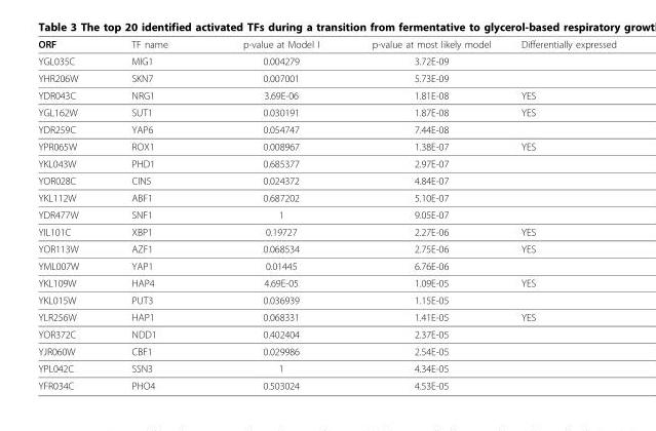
<table><thead><tr><td>ORF</td><td>TF name</td><td>p-value at Model I</td><td>p-value at most likely model</td><td>Differentially expressed</td></tr></thead><tbody><tr><td>YGL035C</td><td>MIG1</td><td>0.004279</td><td>3.72E-09</td><td></td></tr><tr><td>YHR206W</td><td>SKN7</td><td>0.007001</td><td>5.73E-09</td><td></td></tr><tr><td>YDR043C</td><td>NRG1</td><td>3.69E-06</td><td>1.81E-08</td><td>YES</td></tr><tr><td>YGL162W</td><td>SUT1</td><td>0.030191</td><td>1.87E-08</td><td>YES</td></tr><tr><td>YDR259C</td><td>YAP6</td><td>0.054747</td><td>7.44E-08</td><td></td></tr><tr><td>YPR065W</td><td>ROX1</td><td>0.008967</td><td>1.38E-07</td><td>YES</td></tr><tr><td>YKL043W</td><td>PHD1</td><td>0.685377</td><td>2.97E-07</td><td></td></tr><tr><td>YOR028C</td><td>CIN5</td><td>0.024372</td><td>4.84E-07</td><td></td></tr><tr><td>YKL112W</td><td>ABF1</td><td>0.687202</td><td>5.10E-07</td><td></td></tr><tr><td>YDR477W</td><td>SNF1</td><td>1</td><td>9.05E-07</td><td></td></tr><tr><td>YIL101C</td><td>XBP1</td><td>0.19727</td><td>2.27E-06</td><td>YES</td></tr><tr><td>YOR113W</td><td>AZF1</td><td>0.068534</td><td>2.75E-06</td><td>YES</td></tr><tr><td>YML007W</td><td>YAP1</td><td>0.01445</td><td>6.76E-06</td><td></td></tr><tr><td>YKL109W</td><td>HAP4</td><td>4.69E-05</td><td>1.09E-05</td><td>YES</td></tr><tr><td>YKL015W</td><td>PUT3</td><td>0.036939</td><td>1.15E-05</td><td></td></tr><tr><td>YLR256W</td><td>HAP1</td><td>0.068331</td><td>1.41E-05</td><td>YES</td></tr><tr><td>YOR372C</td><td>NDD1</td><td>0.402404</td><td>2.37E-05</td><td></td></tr><tr><td>YJR060W</td><td>CBF1</td><td>0.029986</td><td>2.54E-05</td><td></td></tr><tr><td>YPL042C</td><td>SSN3</td><td>1</td><td>4.34E-05</td><td></td></tr><tr><td>YFR034C</td><td>PHO4</td><td>0.503024</td><td>4.53E-05</td><td></td></tr></tbody></table>